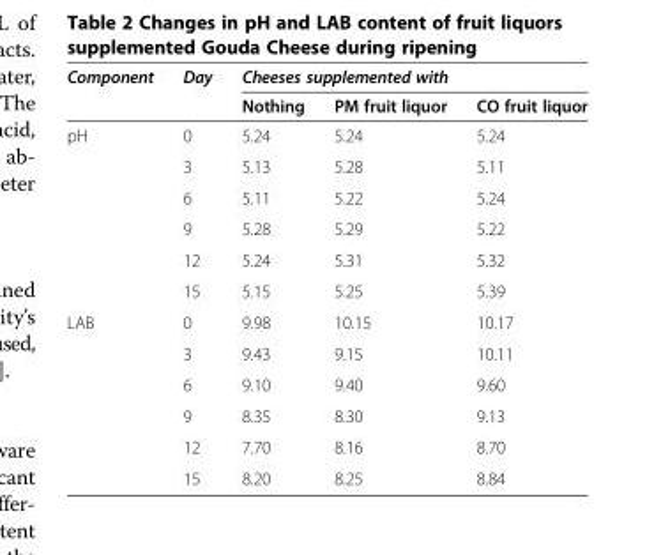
<table><thead><tr><td rowspan="2">Component</td><td rowspan="2">Day</td><td colspan="3">Cheeses supplemented with</td></tr><tr><td>Nothing</td><td>PM fruit liquor</td><td>CO fruit liquor</td></tr></thead><tbody><tr><td rowspan="6">pH</td><td>0</td><td>5.24</td><td>5.24</td><td>5.24</td></tr><tr><td>3</td><td>5.13</td><td>5.28</td><td>5.11</td></tr><tr><td>6</td><td>5.11</td><td>5.22</td><td>5.24</td></tr><tr><td>9</td><td>5.28</td><td>5.29</td><td>5.22</td></tr><tr><td>12</td><td>5.24</td><td>5.31</td><td>5.32</td></tr><tr><td>15</td><td>5.15</td><td>5.25</td><td>5.39</td></tr><tr><td rowspan="6">LAB</td><td>0</td><td>9.98</td><td>10.15</td><td>10.17</td></tr><tr><td>3</td><td>9.43</td><td>9.15</td><td>10.11</td></tr><tr><td>6</td><td>9.10</td><td>9.40</td><td>9.60</td></tr><tr><td>9</td><td>8.35</td><td>8.30</td><td>9.13</td></tr><tr><td>12</td><td>7.70</td><td>8.16</td><td>8.70</td></tr><tr><td>15</td><td>8.20</td><td>8.25</td><td>8.84</td></tr></tbody></table>